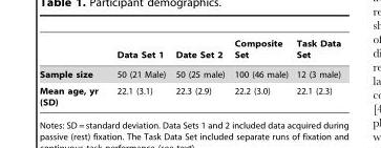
<table><thead><tr><td></td><td>Data Set 1</td><td>Date Set 2</td><td>Composite Set</td><td>Task Data Set</td></tr></thead><tbody><tr><td>Sample size</td><td>50 (21 Male)</td><td>50 (25 male)</td><td>100 (46 male)</td><td>12 (3 male)</td></tr><tr><td>Mean age, yr (SD)</td><td>22.1 (3.1)</td><td>22.3 (2.9)</td><td>22.2 (3.0)</td><td>22.1 (2.3)</td></tr></tbody></table>